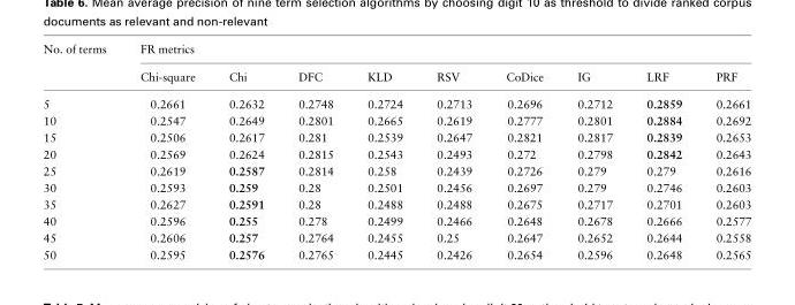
<table><thead><tr><td rowspan="2">No. of terms</td><td colspan="9">FR metrics</td></tr><tr><td>Chi-square</td><td>Chi</td><td>DFC</td><td>KLD</td><td>RSV</td><td>CoDice</td><td>IG</td><td>LRF</td><td>PRF</td></tr></thead><tbody><tr><td>5</td><td>0.2661</td><td>0.2632</td><td>0.2748</td><td>0.2724</td><td>0.2713</td><td>0.2696</td><td>0.2712</td><td>0.2859</td><td>0.2661</td></tr><tr><td>10</td><td>0.2547</td><td>0.2649</td><td>0.2801</td><td>0.2665</td><td>0.2619</td><td>0.2777</td><td>0.2801</td><td>0.2884</td><td>0.2692</td></tr><tr><td>15</td><td>0.2506</td><td>0.2617</td><td>0.281</td><td>0.2539</td><td>0.2647</td><td>0.2821</td><td>0.2817</td><td>0.2839</td><td>0.2653</td></tr><tr><td>20</td><td>0.2569</td><td>0.2624</td><td>0.2815</td><td>0.2543</td><td>0.2493</td><td>0.272</td><td>0.2798</td><td>0.2842</td><td>0.2643</td></tr><tr><td>25</td><td>0.2619</td><td>0.2587</td><td>0.2814</td><td>0.258</td><td>0.2439</td><td>0.2726</td><td>0.279</td><td>0.279</td><td>0.2616</td></tr><tr><td>30</td><td>0.2593</td><td>0.259</td><td>0.28</td><td>0.2501</td><td>0.2456</td><td>0.2697</td><td>0.279</td><td>0.2746</td><td>0.2603</td></tr><tr><td>35</td><td>0.2627</td><td>0.2591</td><td>0.28</td><td>0.2488</td><td>0.2488</td><td>0.2675</td><td>0.2717</td><td>0.2701</td><td>0.2603</td></tr><tr><td>40</td><td>0.2596</td><td>0.255</td><td>0.278</td><td>0.2499</td><td>0.2466</td><td>0.2648</td><td>0.2678</td><td>0.2666</td><td>0.2577</td></tr><tr><td>45</td><td>0.2606</td><td>0.257</td><td>0.2764</td><td>0.2455</td><td>0.25</td><td>0.2647</td><td>0.2652</td><td>0.2644</td><td>0.2558</td></tr><tr><td>50</td><td>0.2595</td><td>0.2576</td><td>0.2765</td><td>0.2445</td><td>0.2426</td><td>0.2654</td><td>0.2596</td><td>0.2648</td><td>0.2565</td></tr></tbody></table>